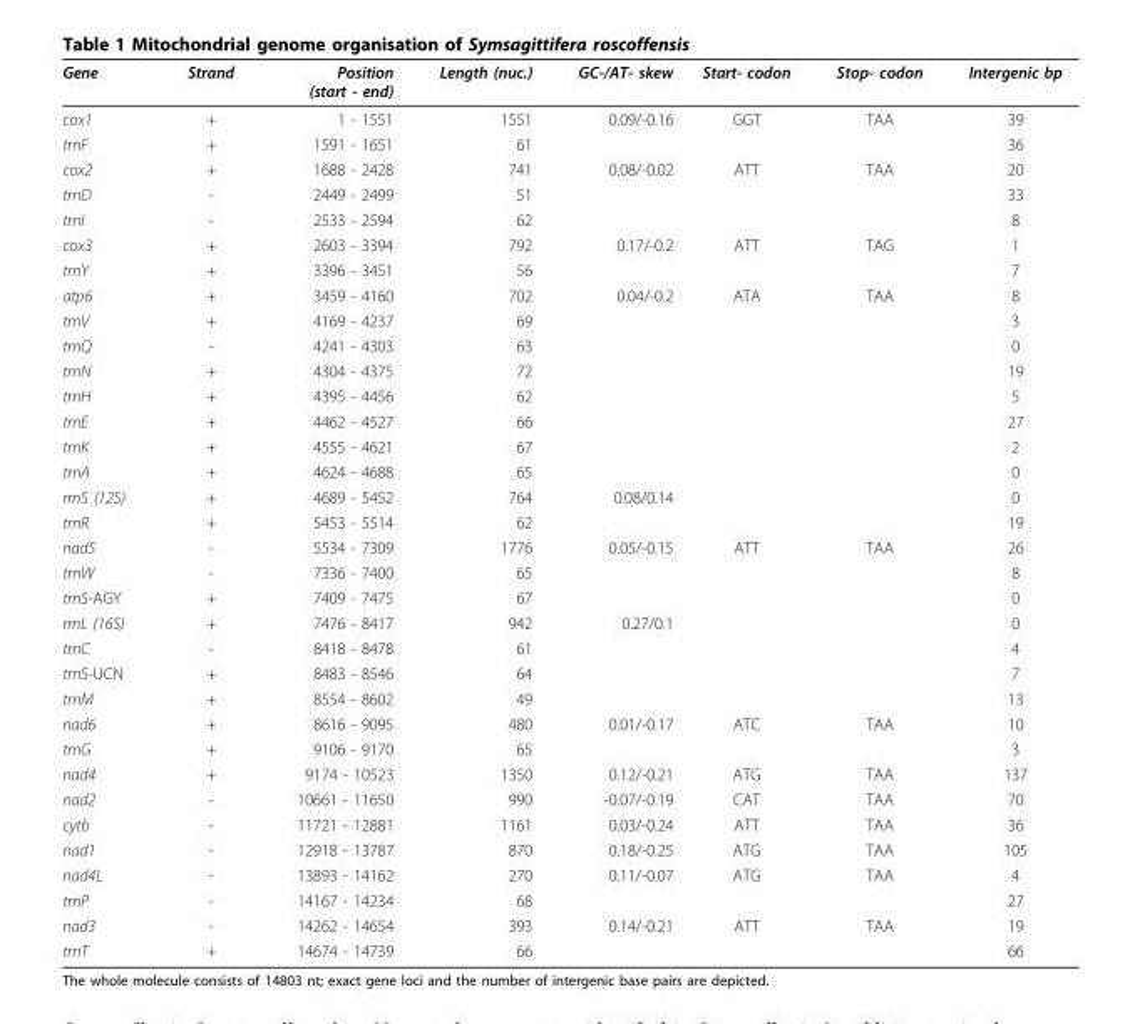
<table><thead><tr><td>Gene</td><td>Strand</td><td>Position (start - end)</td><td>Length (nuc.)</td><td>GC-/AT- skew</td><td>Start- codon</td><td>Stop- codon</td><td>Intergenic bp</td></tr></thead><tbody><tr><td>cox1</td><td>+</td><td>1 - 1551</td><td>1551</td><td>0.09/-0.16</td><td>GGT</td><td>TAA</td><td>39</td></tr><tr><td>trnF</td><td>+</td><td>1591 - 1651</td><td>61</td><td></td><td></td><td></td><td>36</td></tr><tr><td>cox2</td><td>+</td><td>1688 - 2428</td><td>741</td><td>0.08/-0.02</td><td>ATT</td><td>TAA</td><td>20</td></tr><tr><td>trnD</td><td>-</td><td>2449 - 2499</td><td>51</td><td></td><td></td><td></td><td>33</td></tr><tr><td>trnI</td><td>-</td><td>2533 - 2594</td><td>62</td><td></td><td></td><td></td><td>8</td></tr><tr><td>cox3</td><td>+</td><td>2603 - 3394</td><td>792</td><td>0.17/-0.2</td><td>ATT</td><td>TAG</td><td>1</td></tr><tr><td>trnY</td><td>+</td><td>3396 - 3451</td><td>56</td><td></td><td></td><td></td><td>7</td></tr><tr><td>atp6</td><td>+</td><td>3459 - 4160</td><td>702</td><td>0.04/-0.2</td><td>ATA</td><td>TAA</td><td>8</td></tr><tr><td>trnV</td><td>+</td><td>4169 - 4237</td><td>69</td><td></td><td></td><td></td><td>3</td></tr><tr><td>trnQ</td><td>-</td><td>4241 - 4303</td><td>63</td><td></td><td></td><td></td><td>0</td></tr><tr><td>trnN</td><td>+</td><td>4304 - 4375</td><td>72</td><td></td><td></td><td></td><td>19</td></tr><tr><td>trnH</td><td>+</td><td>4395 - 4456</td><td>62</td><td></td><td></td><td></td><td>5</td></tr><tr><td>trnE</td><td>+</td><td>4462 - 4527</td><td>66</td><td></td><td></td><td></td><td>27</td></tr><tr><td>trnK</td><td>+</td><td>4555 - 4621</td><td>67</td><td></td><td></td><td></td><td>2</td></tr><tr><td>trnA</td><td>+</td><td>4624 - 4688</td><td>65</td><td></td><td></td><td></td><td>0</td></tr><tr><td>rrnS (12S)</td><td>+</td><td>4689 - 5452</td><td>764</td><td>0.08/0.14</td><td></td><td></td><td>0</td></tr><tr><td>trnR</td><td>+</td><td>5453 - 5514</td><td>62</td><td></td><td></td><td></td><td>19</td></tr><tr><td>nad5</td><td>-</td><td>5534 - 7309</td><td>1776</td><td>0.05/-0.15</td><td>ATT</td><td>TAA</td><td>26</td></tr><tr><td>trnW</td><td>-</td><td>7336 - 7400</td><td>65</td><td></td><td></td><td></td><td>8</td></tr><tr><td>trnS-AGY</td><td>+</td><td>7409 - 7475</td><td>67</td><td></td><td></td><td></td><td>0</td></tr><tr><td>rrnL (16S)</td><td>+</td><td>7476 - 8417</td><td>942</td><td>0.27/0.1</td><td></td><td></td><td>0</td></tr><tr><td>trnC</td><td>-</td><td>8418 - 8478</td><td>61</td><td></td><td></td><td></td><td>4</td></tr><tr><td>trnS-UCN</td><td>+</td><td>8483 - 8546</td><td>64</td><td></td><td></td><td></td><td>7</td></tr><tr><td>trnM</td><td>+</td><td>8554 - 8602</td><td>49</td><td></td><td></td><td></td><td>13</td></tr><tr><td>nad6</td><td>+</td><td>8616 - 9095</td><td>480</td><td>0.01/-0.17</td><td>ATC</td><td>TAA</td><td>10</td></tr><tr><td>trnG</td><td>+</td><td>9106 - 9170</td><td>65</td><td></td><td></td><td></td><td>3</td></tr><tr><td>nad4</td><td>+</td><td>9174 - 10523</td><td>1350</td><td>0.12/-0.21</td><td>ATG</td><td>TAA</td><td>137</td></tr><tr><td>nad2</td><td>-</td><td>10661 - 11650</td><td>990</td><td>-0.07/-0.19</td><td>CAT</td><td>TAA</td><td>70</td></tr><tr><td>cytb</td><td>-</td><td>11721 - 12881</td><td>1161</td><td>0.03/-0.24</td><td>ATT</td><td>TAA</td><td>36</td></tr><tr><td>nad1</td><td>-</td><td>12918 - 13787</td><td>870</td><td>0.18/-0.25</td><td>ATG</td><td>TAA</td><td>105</td></tr><tr><td>nad4L</td><td>-</td><td>13893 - 14162</td><td>270</td><td>0.11/-0.07</td><td>ATG</td><td>TAA</td><td>4</td></tr><tr><td>trnP</td><td>-</td><td>14167 - 14234</td><td>68</td><td></td><td></td><td></td><td>27</td></tr><tr><td>nad3</td><td>-</td><td>14262 - 14654</td><td>393</td><td>0.14/-0.21</td><td>ATT</td><td>TAA</td><td>19</td></tr><tr><td>trnT</td><td>+</td><td>14674 - 14739</td><td>66</td><td></td><td></td><td></td><td>66</td></tr></tbody></table>